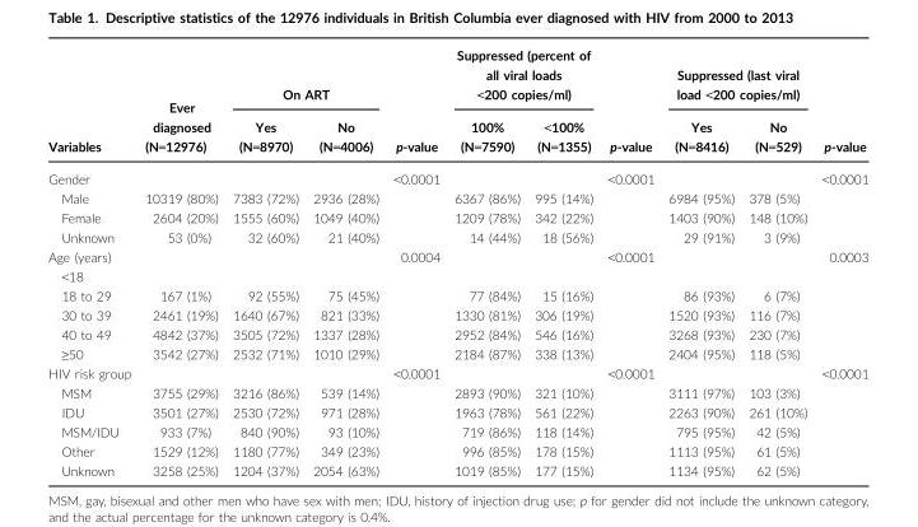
<table><thead><tr><td rowspan="3">Variables</td><td rowspan="3">Ever diagnosed (N=12976)</td><td colspan="2">On ART</td><td rowspan="3">p-value</td><td colspan="2">Suppressed (percent of all viral loads &lt;200 copies/ml)</td><td rowspan="3">p-value</td><td colspan="2">Suppressed (last viral load &lt;200 copies/ml)</td><td rowspan="3">p-value</td></tr><tr><td rowspan="2">Yes (N=8970)</td><td rowspan="2">No (N=4006)</td><td rowspan="2">100% (N=7590)</td><td rowspan="2">&lt;100% (N=1355)</td><td rowspan="2">Yes (N=8416)</td><td rowspan="2">No (N=529)</td></tr><tr></tr></thead><tbody><tr><td>Gender</td><td></td><td></td><td></td><td>&lt;0.0001</td><td></td><td></td><td>&lt;0.0001</td><td></td><td></td><td>&lt;0.0001</td></tr><tr><td>Male</td><td>10319 (80%)</td><td>7383 (72%)</td><td>2936 (28%)</td><td></td><td>6367 (86%)</td><td>995 (14%)</td><td></td><td>6984 (95%)</td><td>378 (5%)</td><td></td></tr><tr><td>Female</td><td>2604 (20%)</td><td>1555 (60%)</td><td>1049 (40%)</td><td></td><td>1209 (78%)</td><td>342 (22%)</td><td></td><td>1403 (90%)</td><td>148 (10%)</td><td></td></tr><tr><td>Unknown</td><td>53 (0%)</td><td>32 (60%)</td><td>21 (40%)</td><td></td><td>14 (44%)</td><td>18 (56%)</td><td></td><td>29 (91%)</td><td>3 (9%)</td><td></td></tr><tr><td>Age (years)</td><td></td><td></td><td></td><td>0.0004</td><td></td><td></td><td>&lt;0.0001</td><td></td><td></td><td>0.0003</td></tr><tr><td colspan="11">&lt;18</td></tr><tr><td>18 to 29</td><td>167 (1%)</td><td>92 (55%)</td><td>75 (45%)</td><td></td><td>77 (84%)</td><td>15 (16%)</td><td></td><td>86 (93%)</td><td>6 (7%)</td><td></td></tr><tr><td>30 to 39</td><td>2461 (19%)</td><td>1640 (67%)</td><td>821 (33%)</td><td></td><td>1330 (81%)</td><td>306 (19%)</td><td></td><td>1520 (93%)</td><td>116 (7%)</td><td></td></tr><tr><td>40 to 49</td><td>4842 (37%)</td><td>3505 (72%)</td><td>1337 (28%)</td><td></td><td>2952 (84%)</td><td>546 (16%)</td><td></td><td>3268 (93%)</td><td>230 (7%)</td><td></td></tr><tr><td>≥50</td><td>3542 (27%)</td><td>2532 (71%)</td><td>1010 (29%)</td><td></td><td>2184 (87%)</td><td>338 (13%)</td><td></td><td>2404 (95%)</td><td>118 (5%)</td><td></td></tr><tr><td>HIV risk group</td><td></td><td></td><td></td><td>&lt;0.0001</td><td></td><td></td><td>&lt;0.0001</td><td></td><td></td><td>&lt;0.0001</td></tr><tr><td>MSM</td><td>3755 (29%)</td><td>3216 (86%)</td><td>539 (14%)</td><td></td><td>2893 (90%)</td><td>321 (10%)</td><td></td><td>3111 (97%)</td><td>103 (3%)</td><td></td></tr><tr><td>IDU</td><td>3501 (27%)</td><td>2530 (72%)</td><td>971 (28%)</td><td></td><td>1963 (78%)</td><td>561 (22%)</td><td></td><td>2263 (90%)</td><td>261 (10%)</td><td></td></tr><tr><td>MSM/IDU</td><td>933 (7%)</td><td>840 (90%)</td><td>93 (10%)</td><td></td><td>719 (86%)</td><td>118 (14%)</td><td></td><td>795 (95%)</td><td>42 (5%)</td><td></td></tr><tr><td>Other</td><td>1529 (12%)</td><td>1180 (77%)</td><td>349 (23%)</td><td></td><td>996 (85%)</td><td>178 (15%)</td><td></td><td>1113 (95%)</td><td>61 (5%)</td><td></td></tr><tr><td>Unknown</td><td>3258 (25%)</td><td>1204 (37%)</td><td>2054 (63%)</td><td></td><td>1019 (85%)</td><td>177 (15%)</td><td></td><td>1134 (95%)</td><td>62 (5%)</td><td></td></tr></tbody></table>